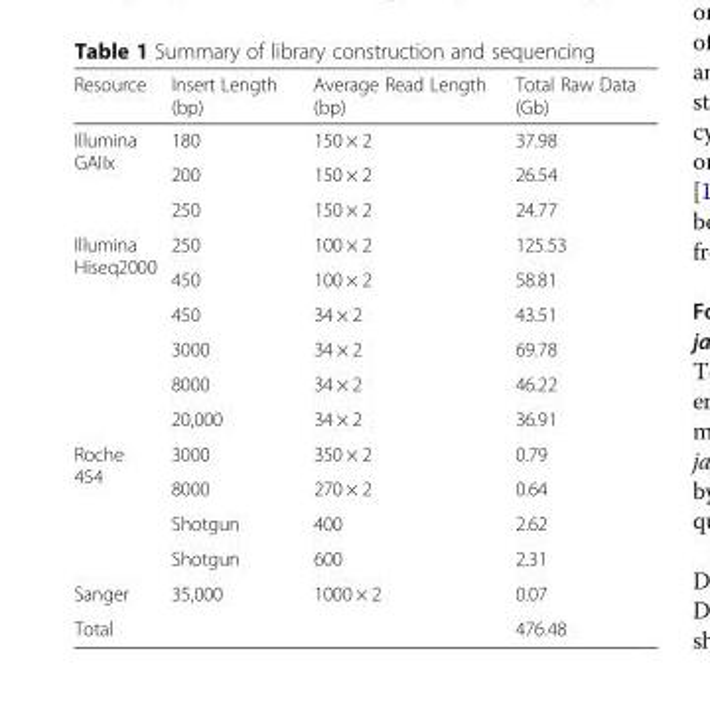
<table><thead><tr><td>Resource</td><td>Insert Length (bp)</td><td>Average Read Length (bp)</td><td>Total Raw Data (Gb)</td></tr></thead><tbody><tr><td rowspan="3">Illumina GAIIx</td><td>180</td><td>150 × 2</td><td>37.98</td></tr><tr><td>200</td><td>150 × 2</td><td>26.54</td></tr><tr><td>250</td><td>150 × 2</td><td>24.77</td></tr><tr><td rowspan="6">Illumina Hiseq2000</td><td>250</td><td>100 × 2</td><td>125.53</td></tr><tr><td>450</td><td>100 × 2</td><td>58.81</td></tr><tr><td>450</td><td>34 × 2</td><td>43.51</td></tr><tr><td>3000</td><td>34 × 2</td><td>69.78</td></tr><tr><td>8000</td><td>34 × 2</td><td>46.22</td></tr><tr><td>20,000</td><td>34 × 2</td><td>36.91</td></tr><tr><td rowspan="4">Roche 454</td><td>3000</td><td>350 × 2</td><td>0.79</td></tr><tr><td>8000</td><td>270 × 2</td><td>0.64</td></tr><tr><td>Shotgun</td><td>400</td><td>2.62</td></tr><tr><td>Shotgun</td><td>600</td><td>2.31</td></tr><tr><td>Sanger</td><td>35,000</td><td>1000 × 2</td><td>0.07</td></tr><tr><td>Total</td><td></td><td></td><td>476.48</td></tr></tbody></table>